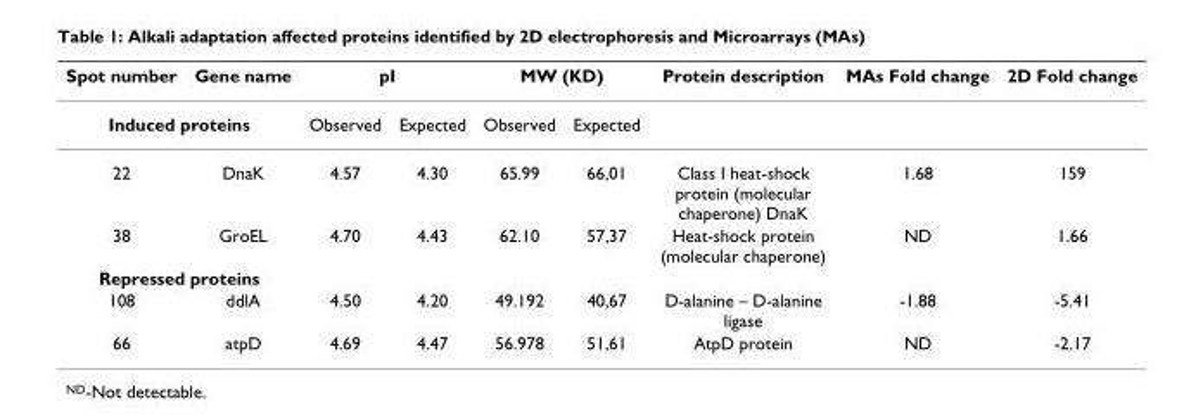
<table><thead><tr><td>Spot number</td><td>Gene name</td><td colspan="2">pI</td><td colspan="2">MW (KD)</td><td rowspan="2">Protein description</td><td rowspan="2">MAs Fold change</td><td rowspan="2">2D Fold change</td></tr><tr><td colspan="2">Induced proteins</td><td>Observed</td><td>Expected</td><td>Observed</td><td>Expected</td></tr></thead><tbody><tr><td>22</td><td>DnaK</td><td>4.57</td><td>4.30</td><td>65.99</td><td>66,01</td><td>Class I heat-shock protein (molecular chaperone) DnaK</td><td>1.68</td><td>159</td></tr><tr><td>38</td><td>GroEL</td><td>4.70</td><td>4.43</td><td>62.10</td><td>57,37</td><td>Heat-shock protein (molecular chaperone)</td><td>ND</td><td>1.66</td></tr><tr><td colspan="9">Repressed proteins</td></tr><tr><td>108</td><td>ddlA</td><td>4.50</td><td>4.20</td><td>49.192</td><td>40,67</td><td>D-alanine – D-alanine ligase</td><td>-1.88</td><td>-5.41</td></tr><tr><td>66</td><td>atpD</td><td>4.69</td><td>4.47</td><td>56.978</td><td>51,61</td><td>AtpD protein</td><td>ND</td><td>-2.17</td></tr></tbody></table>